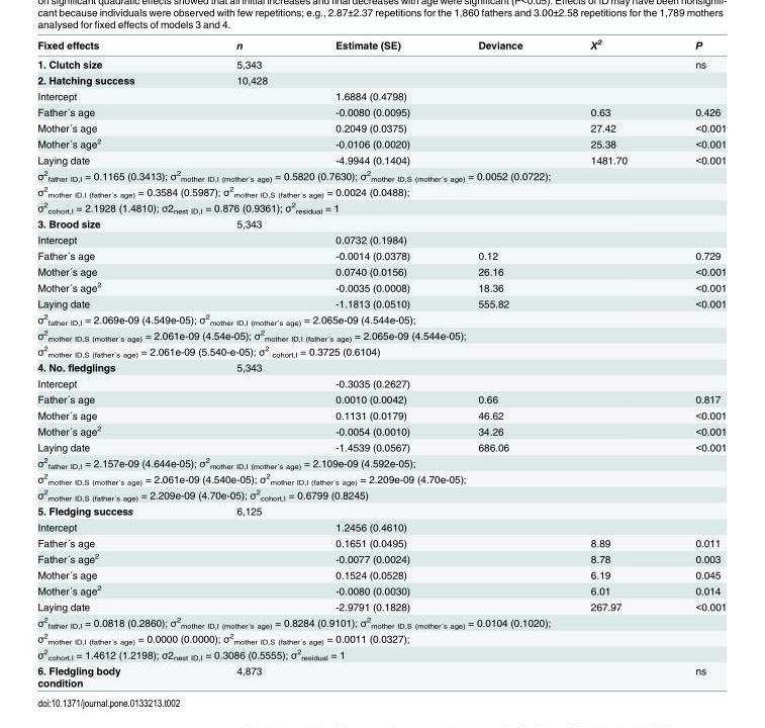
<table><thead><tr><td>Fixed effects</td><td>n</td><td>Estimate (SE)</td><td>Deviance</td><td>X<sup>2</sup></td><td>P</td></tr></thead><tbody><tr><td>1. Clutch size</td><td>5,343</td><td></td><td></td><td></td><td>ns</td></tr><tr><td>2. Hatching success</td><td>10,428</td><td></td><td></td><td></td><td></td></tr><tr><td>Intercept</td><td></td><td>1.6884 (0.4798)</td><td></td><td></td><td></td></tr><tr><td>Father´s age</td><td></td><td>-0.0080 (0.0095)</td><td></td><td>0.63</td><td>0.426</td></tr><tr><td>Mother´s age</td><td></td><td>0.2049 (0.0375)</td><td></td><td>27.42</td><td>&lt;0.001</td></tr><tr><td>Mother´s age<sup>2</sup></td><td></td><td>-0.0106 (0.0020)</td><td></td><td>25.38</td><td>&lt;0.001</td></tr><tr><td>Laying date</td><td></td><td>-4.9944 (0.1404)</td><td></td><td>1481.70</td><td>&lt;0.001</td></tr><tr><td colspan="6">σ<sup>2</sup> <sub>father ID,I</sub> = 0.1165 (0.3413); σ<sup>2</sup> <sub>mother ID,I (mother´s age)</sub> = 0.5820 (0.7630); σ<sup>2</sup> <sub>mother ID,S (mother´s age)</sub> = 0.0052 (0.0722);</td></tr><tr><td colspan="6">σ<sup>2</sup> <sub>mother ID,I (father´s age)</sub> = 0.3584 (0.5987); σ<sup>2</sup> <sub>mother ID,S (father´s age)</sub> = 0.0024 (0.0488);</td></tr><tr><td colspan="6">σ<sup>2</sup> <sub>cohort,I</sub> = 2.1928 (1.4810); σ2<sub>nest ID,I</sub> = 0.876 (0.9361); σ<sup>2</sup> <sub>residual</sub> = 1</td></tr><tr><td>3. Brood size</td><td>5,343</td><td></td><td></td><td></td><td></td></tr><tr><td>Intercept</td><td></td><td>0.0732 (0.1984)</td><td></td><td></td><td></td></tr><tr><td>Father´s age</td><td></td><td>-0.0014 (0.0378)</td><td>0.12</td><td></td><td>0.729</td></tr><tr><td>Mother´s age</td><td></td><td>0.0740 (0.0156)</td><td>26.16</td><td></td><td>&lt;0.001</td></tr><tr><td>Mother´s age<sup>2</sup></td><td></td><td>-0.0035 (0.0008)</td><td>18.36</td><td></td><td>&lt;0.001</td></tr><tr><td>Laying date</td><td></td><td>-1.1813 (0.0510)</td><td>555.82</td><td></td><td>&lt;0.001</td></tr><tr><td colspan="6">σ<sup>2</sup> <sub>father ID,I</sub> = 2.069e-09 (4.549e-05); σ<sup>2</sup> <sub>mother ID,I (mother´s age)</sub> = 2.065e-09 (4.544e-05);</td></tr><tr><td colspan="6">σ<sup>2</sup> <sub>mother ID,S (mother´s age)</sub> = 2.061e-09 (4.54e-05); σ<sup>2</sup> <sub>mother ID,I (father´s age)</sub> = 2.065e-09 (4.544e-05);</td></tr><tr><td colspan="6">σ<sup>2</sup> <sub>mother ID,S (father´s age)</sub> = 2.061e-09 (5.540-e-05); σ<sup>2</sup> <sub>cohort,I</sub> = 0.3725 (0.6104)</td></tr><tr><td>4. No. fledglings</td><td>5,343</td><td></td><td></td><td></td><td></td></tr><tr><td>Intercept</td><td></td><td>-0.3035 (0.2627)</td><td></td><td></td><td></td></tr><tr><td>Father´s age</td><td></td><td>0.0010 (0.0042)</td><td>0.66</td><td></td><td>0.817</td></tr><tr><td>Mother´s age</td><td></td><td>0.1131 (0.0179)</td><td>46.62</td><td></td><td>&lt;0.001</td></tr><tr><td>Mother´s age<sup>2</sup></td><td></td><td>-0.0054 (0.0010)</td><td>34.26</td><td></td><td>&lt;0.001</td></tr><tr><td>Laying date</td><td></td><td>-1.4539 (0.0567)</td><td>686.06</td><td></td><td>&lt;0.001</td></tr><tr><td colspan="6">σ<sup>2</sup> <sub>father ID,I</sub> = 2.157e-09 (4.644e-05); σ<sup>2</sup> <sub>mother ID,I (mother´s age)</sub> = 2.109e-09 (4.592e-05);</td></tr><tr><td colspan="6">σ<sup>2</sup> <sub>mother ID,S (mother´s age)</sub> = 2.061e-09 (4.540e-05); σ<sup>2</sup> <sub>mother ID,I (father´s age)</sub> = 2.209e-09 (4.70e-05);</td></tr><tr><td colspan="6">σ<sup>2</sup> <sub>mother ID,S (father´s age)</sub> = 2.209e-09 (4.70e-05); σ<sup>2</sup> <sub>cohort,I</sub> = 0.6799 (0.8245)</td></tr><tr><td>5. Fledging success</td><td>6,125</td><td></td><td></td><td></td><td></td></tr><tr><td>Intercept</td><td></td><td>1.2456 (0.4610)</td><td></td><td></td><td></td></tr><tr><td>Father´s age</td><td></td><td>0.1651 (0.0495)</td><td></td><td>8.89</td><td>0.011</td></tr><tr><td>Father´s age<sup>2</sup></td><td></td><td>-0.0077 (0.0024)</td><td></td><td>8.78</td><td>0.003</td></tr><tr><td>Mother´s age</td><td></td><td>0.1524 (0.0528)</td><td></td><td>6.19</td><td>0.045</td></tr><tr><td>Mother´s age<sup>2</sup></td><td></td><td>-0.0080 (0.0030)</td><td></td><td>6.01</td><td>0.014</td></tr><tr><td>Laying date</td><td></td><td>-2.9791 (0.1828)</td><td></td><td>267.97</td><td>&lt;0.001</td></tr><tr><td colspan="6">σ<sup>2</sup> <sub>father ID,I</sub> = 0.0818 (0.2860); σ<sup>2</sup> <sub>mother ID,I (mother´s age)</sub> = 0.8284 (0.9101); σ<sup>2</sup> <sub>mother ID,S (mother´s age)</sub> = 0.0104 (0.1020);</td></tr><tr><td colspan="6">σ<sup>2</sup> <sub>mother ID,I (father´s age)</sub> = 0.0000 (0.0000); σ<sup>2</sup> <sub>mother ID,S (father´s age)</sub> = 0.0011 (0.0327);</td></tr><tr><td colspan="6">σ<sup>2</sup> <sub>cohort,I</sub> = 1.4612 (1.2198); σ2<sub>nest ID,I</sub> = 0.3086 (0.5555); σ<sup>2</sup> <sub>residual</sub> = 1</td></tr><tr><td>6. Fledgling body condition</td><td>4,873</td><td></td><td></td><td></td><td>ns</td></tr></tbody></table>